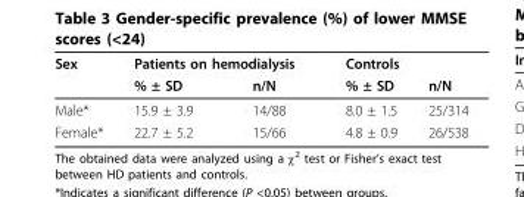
<table><thead><tr><td rowspan="2">Sex</td><td colspan="2">Patients on hemodialysis</td><td colspan="2">Controls</td></tr><tr><td>% ± SD</td><td>n/N</td><td>% ± SD</td><td>n/N</td></tr></thead><tbody><tr><td>Male*</td><td>15.9 ± 3.9</td><td>14/88</td><td>8.0 ± 1.5</td><td>25/314</td></tr><tr><td>Female*</td><td>22.7 ± 5.2</td><td>15/66</td><td>4.8 ± 0.9</td><td>26/538</td></tr></tbody></table>